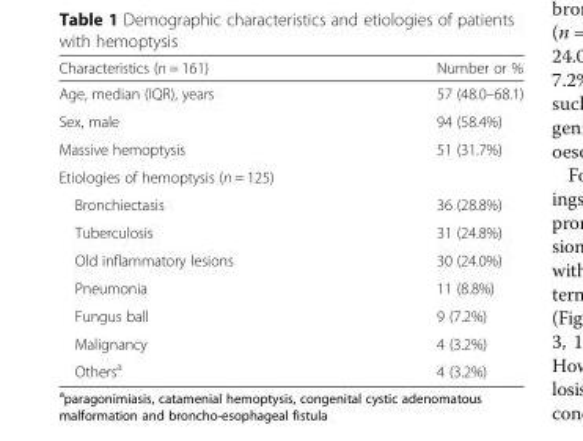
<table><thead><tr><td>Characteristics (n = 161)</td><td>Number or %</td></tr></thead><tbody><tr><td>Age, median (IQR), years</td><td>57 (48.0–68.1)</td></tr><tr><td>Sex, male</td><td>94 (58.4%)</td></tr><tr><td>Massive hemoptysis</td><td>51 (31.7%)</td></tr><tr><td colspan="2">Etiologies of hemoptysis (n = 125)</td></tr><tr><td>Bronchiectasis</td><td>36 (28.8%)</td></tr><tr><td>Tuberculosis</td><td>31 (24.8%)</td></tr><tr><td>Old inflammatory lesions</td><td>30 (24.0%)</td></tr><tr><td>Pneumonia</td><td>11 (8.8%)</td></tr><tr><td>Fungus ball</td><td>9 (7.2%)</td></tr><tr><td>Malignancy</td><td>4 (3.2%)</td></tr><tr><td>Others<sup>a</sup></td><td>4 (3.2%)</td></tr></tbody></table>